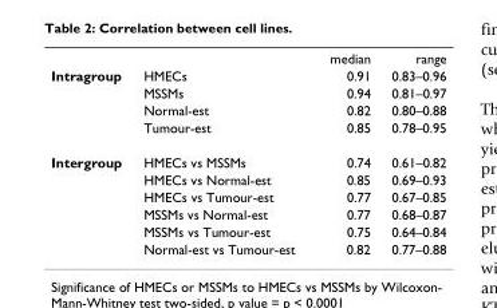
<table><thead><tr><td></td><td></td><td>median</td><td>range</td></tr></thead><tbody><tr><td rowspan="4">Intragroup</td><td>HMECs</td><td>0.91</td><td>0.83–0.96</td></tr><tr><td>MSSMs</td><td>0.94</td><td>0.81–0.97</td></tr><tr><td>Normal-est</td><td>0.82</td><td>0.80–0.88</td></tr><tr><td>Tumour-est</td><td>0.85</td><td>0.78–0.95</td></tr><tr><td rowspan="6">Intergroup</td><td>HMECs vs MSSMs</td><td>0.74</td><td>0.61–0.82</td></tr><tr><td>HMECs vs Normal-est</td><td>0.85</td><td>0.69–0.93</td></tr><tr><td>HMECs vs Tumour-est</td><td>0.77</td><td>0.67–0.85</td></tr><tr><td>MSSMs vs Normal-est</td><td>0.77</td><td>0.68–0.87</td></tr><tr><td>MSSMs vs Tumour-est</td><td>0.75</td><td>0.64–0.84</td></tr><tr><td>Normal-est vs Tumour-est</td><td>0.82</td><td>0.77–0.88</td></tr></tbody></table>